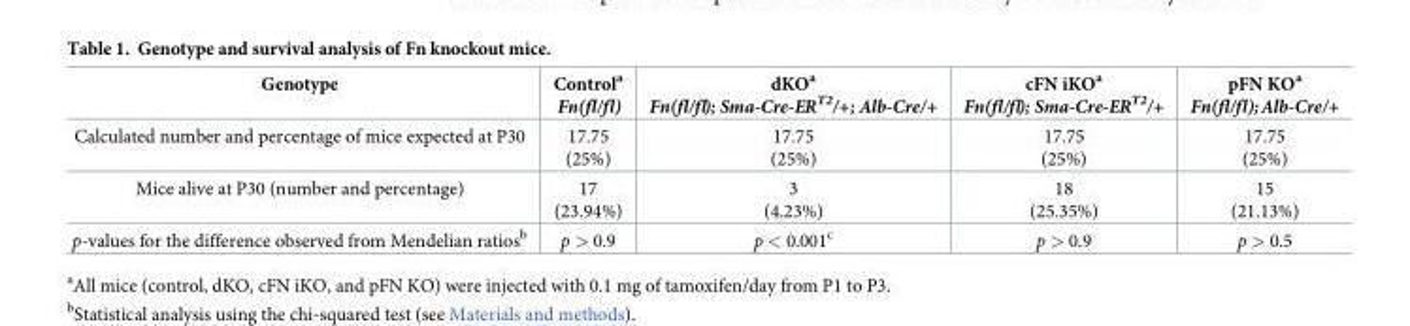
<table><thead><tr><td>Genotype</td><td>Control<sup>a</sup> Fn(fl/fl)</td><td>dKO<sup>a</sup> Fn(fl/fl); Sma-Cre-ER<sup>T2</sup>/+; Alb-Cre/+</td><td>cFN iKO<sup>a</sup> Fn(fl/fl); Sma-Cre-ER<sup>T2</sup>/+</td><td>pFN KO<sup>a</sup> Fn(fl/fl);Alb-Cre/+</td></tr></thead><tbody><tr><td>Calculated number and percentage of mice expected at P30</td><td>17.75 (25%)</td><td>17.75 (25%)</td><td>17.75 (25%)</td><td>17.75 (25%)</td></tr><tr><td>Mice alive at P30 (number and percentage)</td><td>17 (23.94%)</td><td>3 (4.23%)</td><td>18 (25.35%)</td><td>15 (21.13%)</td></tr><tr><td>p-values for the difference observed from Mendelian ratios<sup>b</sup></td><td>p &gt; 0.9</td><td>p &lt; 0.001<sup>c</sup></td><td>p &gt; 0.9</td><td>p &gt; 0.5</td></tr></tbody></table>